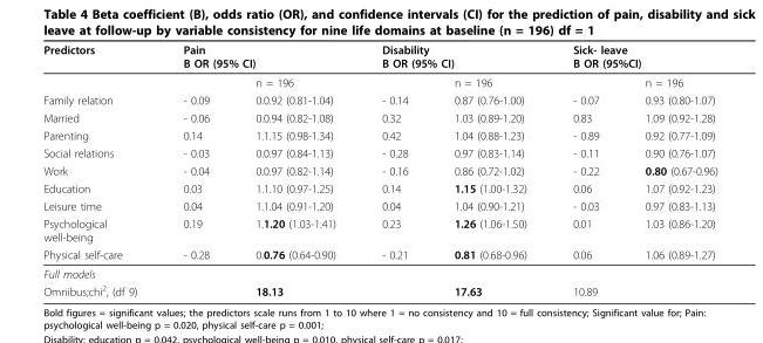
<table><thead><tr><td rowspan="2">Predictors</td><td colspan="2">Pain B OR (95% CI)</td><td colspan="2">Disability B OR (95% CI)</td><td colspan="2">Sick- leave B OR (95%CI)</td></tr><tr><td></td><td>n = 196</td><td></td><td>n = 196</td><td></td><td>n = 196</td></tr></thead><tbody><tr><td>Family relation</td><td>- 0.09</td><td>0.0.92 (0.81-1.04)</td><td>- 0.14</td><td>0.87 (0.76-1.00)</td><td>- 0.07</td><td>0.93 (0.80-1.07)</td></tr><tr><td>Married</td><td>- 0.06</td><td>0.0.94 (0.82-1.08)</td><td>0.32</td><td>1.03 (0.89-1.20)</td><td>0.83</td><td>1.09 (0.92-1.28)</td></tr><tr><td>Parenting</td><td>0.14</td><td>1.1.15 (0.98-1.34)</td><td>0.42</td><td>1.04 (0.88-1.23)</td><td>- 0.89</td><td>0.92 (0.77-1.09)</td></tr><tr><td>Social relations</td><td>- 0.03</td><td>0.0.97 (0.84-1.13)</td><td>- 0.28</td><td>0.97 (0.83-1.14)</td><td>- 0.11</td><td>0.90 (0.76-1.07)</td></tr><tr><td>Work</td><td>- 0.04</td><td>0.0.97 (0.82-1.14)</td><td>- 0.16</td><td>0.86 (0.72-1.02)</td><td>- 0.22</td><td>0.80 (0.67-0.96)</td></tr><tr><td>Education</td><td>0.03</td><td>1.1.10 (0.97-1.25)</td><td>0.14</td><td>1.15 (1.00-1.32)</td><td>0.06</td><td>1.07 (0.92-1.23)</td></tr><tr><td>Leisure time</td><td>0.04</td><td>1.1.04 (0.91-1.20)</td><td>0.04</td><td>1.04 (0.90-1.21)</td><td>- 0.03</td><td>0.97 (0.83-1.13)</td></tr><tr><td>Psychological well-being</td><td>0.19</td><td>1.1.20 (1.03-1.41)</td><td>0.23</td><td>1.26 (1.06-1.50)</td><td>0.01</td><td>1.03 (0.86-1.20)</td></tr><tr><td>Physical self-care</td><td>- 0.28</td><td>0.0.76 (0.64-0.90)</td><td>- 0.21</td><td>0.81 (0.68-0.96)</td><td>0.06</td><td>1.06 (0.89-1.27)</td></tr><tr><td colspan="7">Full models</td></tr><tr><td>Omnibus;chi<sup>2</sup>, (df 9)</td><td></td><td>18.13</td><td></td><td>17.63</td><td>10.89</td><td></td></tr></tbody></table>